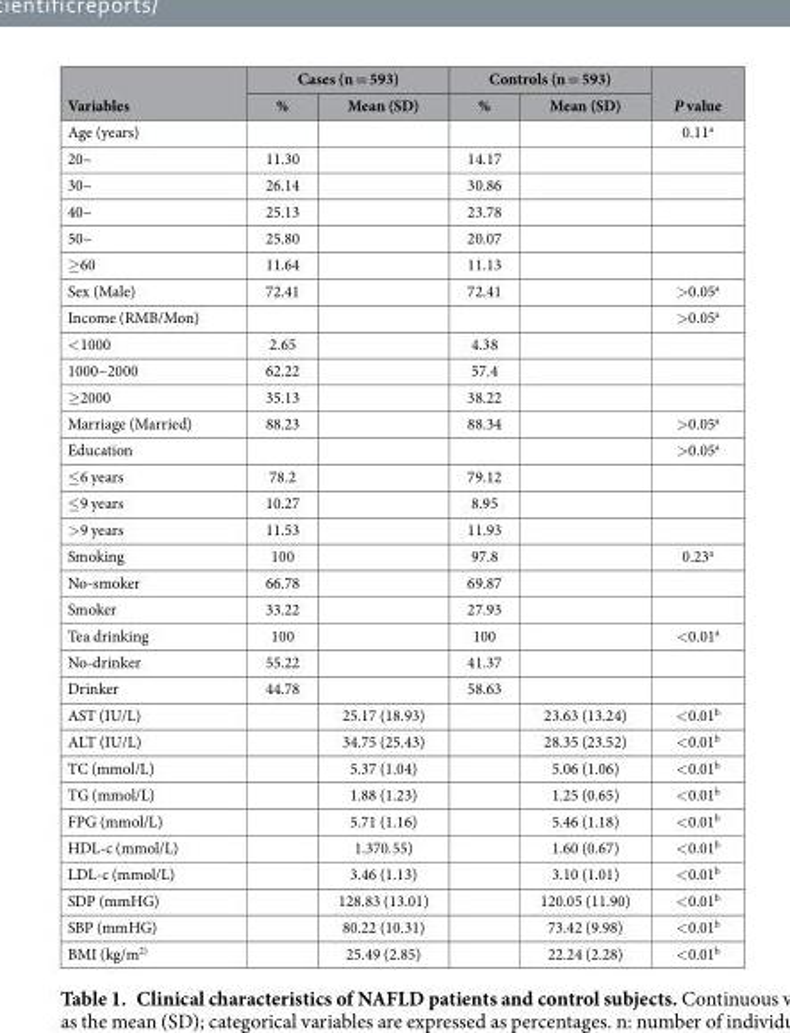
<table><thead><tr><td rowspan="2">Variables</td><td colspan="2">Cases (n = 593)</td><td colspan="2">Controls (n = 593)</td><td rowspan="2">P value</td></tr><tr><td>%</td><td>Mean (SD)</td><td>%</td><td>Mean (SD)</td></tr></thead><tbody><tr><td>Age (years)</td><td></td><td></td><td></td><td></td><td>0.11<sup>a</sup></td></tr><tr><td>20~</td><td>11.30</td><td></td><td>14.17</td><td></td><td></td></tr><tr><td>30~</td><td>26.14</td><td></td><td>30.86</td><td></td><td></td></tr><tr><td>40~</td><td>25.13</td><td></td><td>23.78</td><td></td><td></td></tr><tr><td>50~</td><td>25.80</td><td></td><td>20.07</td><td></td><td></td></tr><tr><td>≥ 60</td><td>11.64</td><td></td><td>11.13</td><td></td><td></td></tr><tr><td>Sex (Male)</td><td>72.41</td><td></td><td>72.41</td><td></td><td>&gt; 0.05<sup>a</sup></td></tr><tr><td>Income (RMB/Mon)</td><td></td><td></td><td></td><td></td><td>&gt; 0.05<sup>a</sup></td></tr><tr><td>&lt; 1000</td><td>2.65</td><td></td><td>4.38</td><td></td><td></td></tr><tr><td>1000~2000</td><td>62.22</td><td></td><td>57.4</td><td></td><td></td></tr><tr><td>≥ 2000</td><td>35.13</td><td></td><td>38.22</td><td></td><td></td></tr><tr><td>Marriage (Married)</td><td>88.23</td><td></td><td>88.34</td><td></td><td>&gt; 0.05<sup>a</sup></td></tr><tr><td>Education</td><td></td><td></td><td></td><td></td><td>&gt; 0.05<sup>a</sup></td></tr><tr><td>≤ 6 years</td><td>78.2</td><td></td><td>79.12</td><td></td><td></td></tr><tr><td>≤ 9 years</td><td>10.27</td><td></td><td>8.95</td><td></td><td></td></tr><tr><td>&gt; 9 years</td><td>11.53</td><td></td><td>11.93</td><td></td><td></td></tr><tr><td>Smoking</td><td>100</td><td></td><td>97.8</td><td></td><td>0.23<sup>a</sup></td></tr><tr><td>No-smoker</td><td>66.78</td><td></td><td>69.87</td><td></td><td></td></tr><tr><td>Smoker</td><td>33.22</td><td></td><td>27.93</td><td></td><td></td></tr><tr><td>Tea drinking</td><td>100</td><td></td><td>100</td><td></td><td>&lt; 0.01<sup>a</sup></td></tr><tr><td>No-drinker</td><td>55.22</td><td></td><td>41.37</td><td></td><td></td></tr><tr><td>Drinker</td><td>44.78</td><td></td><td>58.63</td><td></td><td></td></tr><tr><td>AST (IU/L)</td><td></td><td>25.17 (18.93)</td><td></td><td>23.63 (13.24)</td><td>&lt; 0.01<sup>b</sup></td></tr><tr><td>ALT (IU/L)</td><td></td><td>34.75 (25.43)</td><td></td><td>28.35 (23.52)</td><td>&lt; 0.01<sup>b</sup></td></tr><tr><td>TC (mmol/L)</td><td></td><td>5.37 (1.04)</td><td></td><td>5.06 (1.06)</td><td>&lt; 0.01<sup>b</sup></td></tr><tr><td>TG (mmol/L)</td><td></td><td>1.88 (1.23)</td><td></td><td>1.25 (0.65)</td><td>&lt; 0.01<sup>b</sup></td></tr><tr><td>FPG (mmol/L)</td><td></td><td>5.71 (1.16)</td><td></td><td>5.46 (1.18)</td><td>&lt; 0.01<sup>b</sup></td></tr><tr><td>HDL-c (mmol/L)</td><td></td><td>1.370.55)</td><td></td><td>1.60 (0.67)</td><td>&lt; 0.01<sup>b</sup></td></tr><tr><td>LDL-c (mmol/L)</td><td></td><td>3.46 (1.13)</td><td></td><td>3.10 (1.01)</td><td>&lt; 0.01<sup>b</sup></td></tr><tr><td>SDP (mmHG)</td><td></td><td>128.83 (13.01)</td><td></td><td>120.05 (11.90)</td><td>&lt; 0.01<sup>b</sup></td></tr><tr><td>SBP (mmHG)</td><td></td><td>80.22 (10.31)</td><td></td><td>73.42 (9.98)</td><td>&lt; 0.01<sup>b</sup></td></tr><tr><td>BMI (kg/m<sup>2)</sup></td><td></td><td>25.49 (2.85)</td><td></td><td>22.24 (2.28)</td><td>&lt; 0.01<sup>b</sup></td></tr></tbody></table>